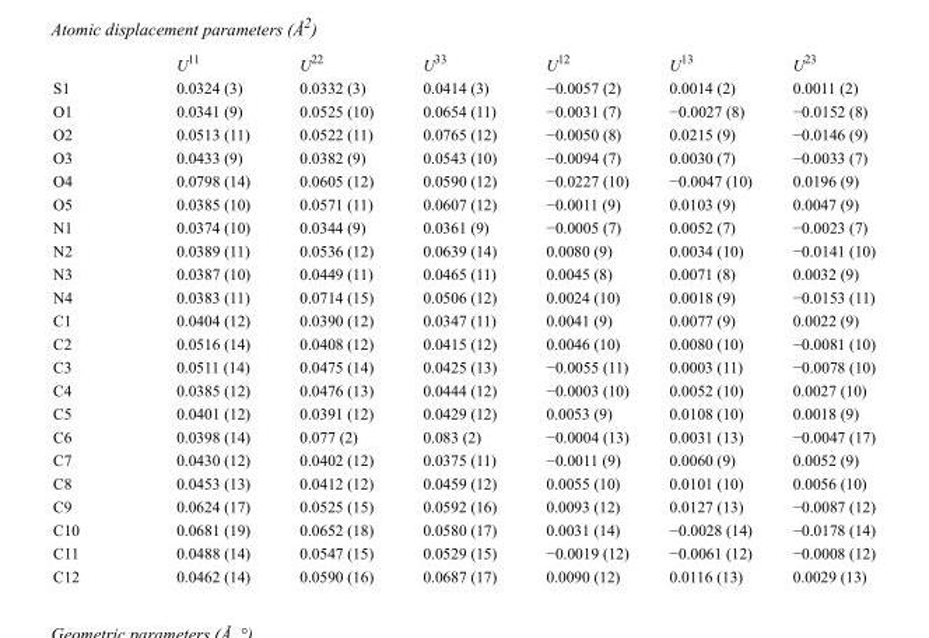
<table><thead><tr><td></td><td>U<sup>11</sup></td><td>U<sup>22</sup></td><td>U<sup>33</sup></td><td>U<sup>12</sup></td><td>U<sup>13</sup></td><td>U<sup>23</sup></td></tr></thead><tbody><tr><td>S1</td><td>0.0324 (3)</td><td>0.0332 (3)</td><td>0.0414 (3)</td><td>−0.0057 (2)</td><td>0.0014 (2)</td><td>0.0011 (2)</td></tr><tr><td>O1</td><td>0.0341 (9)</td><td>0.0525 (10)</td><td>0.0654 (11)</td><td>−0.0031 (7)</td><td>−0.0027 (8)</td><td>−0.0152 (8)</td></tr><tr><td>O2</td><td>0.0513 (11)</td><td>0.0522 (11)</td><td>0.0765 (12)</td><td>−0.0050 (8)</td><td>0.0215 (9)</td><td>−0.0146 (9)</td></tr><tr><td>O3</td><td>0.0433 (9)</td><td>0.0382 (9)</td><td>0.0543 (10)</td><td>−0.0094 (7)</td><td>0.0030 (7)</td><td>−0.0033 (7)</td></tr><tr><td>O4</td><td>0.0798 (14)</td><td>0.0605 (12)</td><td>0.0590 (12)</td><td>−0.0227 (10)</td><td>−0.0047 (10)</td><td>0.0196 (9)</td></tr><tr><td>O5</td><td>0.0385 (10)</td><td>0.0571 (11)</td><td>0.0607 (12)</td><td>−0.0011 (9)</td><td>0.0103 (9)</td><td>0.0047 (9)</td></tr><tr><td>N1</td><td>0.0374 (10)</td><td>0.0344 (9)</td><td>0.0361 (9)</td><td>−0.0005 (7)</td><td>0.0052 (7)</td><td>−0.0023 (7)</td></tr><tr><td>N2</td><td>0.0389 (11)</td><td>0.0536 (12)</td><td>0.0639 (14)</td><td>0.0080 (9)</td><td>0.0034 (10)</td><td>−0.0141 (10)</td></tr><tr><td>N3</td><td>0.0387 (10)</td><td>0.0449 (11)</td><td>0.0465 (11)</td><td>0.0045 (8)</td><td>0.0071 (8)</td><td>0.0032 (9)</td></tr><tr><td>N4</td><td>0.0383 (11)</td><td>0.0714 (15)</td><td>0.0506 (12)</td><td>0.0024 (10)</td><td>0.0018 (9)</td><td>−0.0153 (11)</td></tr><tr><td>C1</td><td>0.0404 (12)</td><td>0.0390 (12)</td><td>0.0347 (11)</td><td>0.0041 (9)</td><td>0.0077 (9)</td><td>0.0022 (9)</td></tr><tr><td>C2</td><td>0.0516 (14)</td><td>0.0408 (12)</td><td>0.0415 (12)</td><td>0.0046 (10)</td><td>0.0080 (10)</td><td>−0.0081 (10)</td></tr><tr><td>C3</td><td>0.0511 (14)</td><td>0.0475 (14)</td><td>0.0425 (13)</td><td>−0.0055 (11)</td><td>0.0003 (11)</td><td>−0.0078 (10)</td></tr><tr><td>C4</td><td>0.0385 (12)</td><td>0.0476 (13)</td><td>0.0444 (12)</td><td>−0.0003 (10)</td><td>0.0052 (10)</td><td>0.0027 (10)</td></tr><tr><td>C5</td><td>0.0401 (12)</td><td>0.0391 (12)</td><td>0.0429 (12)</td><td>0.0053 (9)</td><td>0.0108 (10)</td><td>0.0018 (9)</td></tr><tr><td>C6</td><td>0.0398 (14)</td><td>0.077 (2)</td><td>0.083 (2)</td><td>−0.0004 (13)</td><td>0.0031 (13)</td><td>−0.0047 (17)</td></tr><tr><td>C7</td><td>0.0430 (12)</td><td>0.0402 (12)</td><td>0.0375 (11)</td><td>−0.0011 (9)</td><td>0.0060 (9)</td><td>0.0052 (9)</td></tr><tr><td>C8</td><td>0.0453 (13)</td><td>0.0412 (12)</td><td>0.0459 (12)</td><td>0.0055 (10)</td><td>0.0101 (10)</td><td>0.0056 (10)</td></tr><tr><td>C9</td><td>0.0624 (17)</td><td>0.0525 (15)</td><td>0.0592 (16)</td><td>0.0093 (12)</td><td>0.0127 (13)</td><td>−0.0087 (12)</td></tr><tr><td>C10</td><td>0.0681 (19)</td><td>0.0652 (18)</td><td>0.0580 (17)</td><td>0.0031 (14)</td><td>−0.0028 (14)</td><td>−0.0178 (14)</td></tr><tr><td>C11</td><td>0.0488 (14)</td><td>0.0547 (15)</td><td>0.0529 (15)</td><td>−0.0019 (12)</td><td>−0.0061 (12)</td><td>−0.0008 (12)</td></tr><tr><td>C12</td><td>0.0462 (14)</td><td>0.0590 (16)</td><td>0.0687 (17)</td><td>0.0090 (12)</td><td>0.0116 (13)</td><td>0.0029 (13)</td></tr></tbody></table>